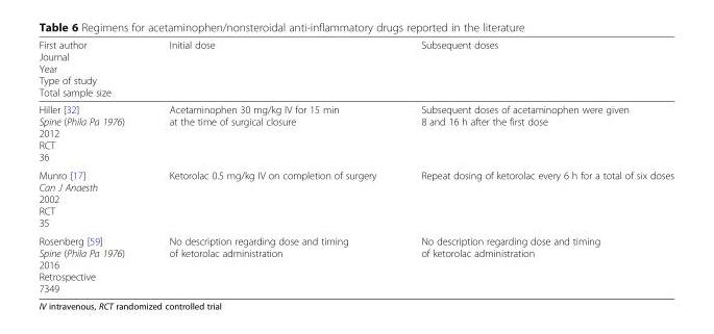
<table><thead><tr><td>First author Journal Year Type of study Total sample size</td><td>Initial dose</td><td>Subsequent doses</td></tr></thead><tbody><tr><td>Hiller [32] Spine (Phila Pa 1976) 2012 RCT 36</td><td>Acetaminophen 30 mg/kg IV for 15 min at the time of surgical closure</td><td>Subsequent doses of acetaminophen were given 8 and 16 h after the first dose</td></tr><tr><td>Munro [17] Can J Anaesth 2002 RCT 35</td><td>Ketorolac 0.5 mg/kg IV on completion of surgery</td><td>Repeat dosing of ketorolac every 6 h for a total of six doses</td></tr><tr><td>Rosenberg [59] Spine (Phila Pa 1976) 2016 Retrospective 7349</td><td>No description regarding dose and timing of ketorolac administration</td><td>No description regarding dose and timing of ketorolac administration</td></tr></tbody></table>